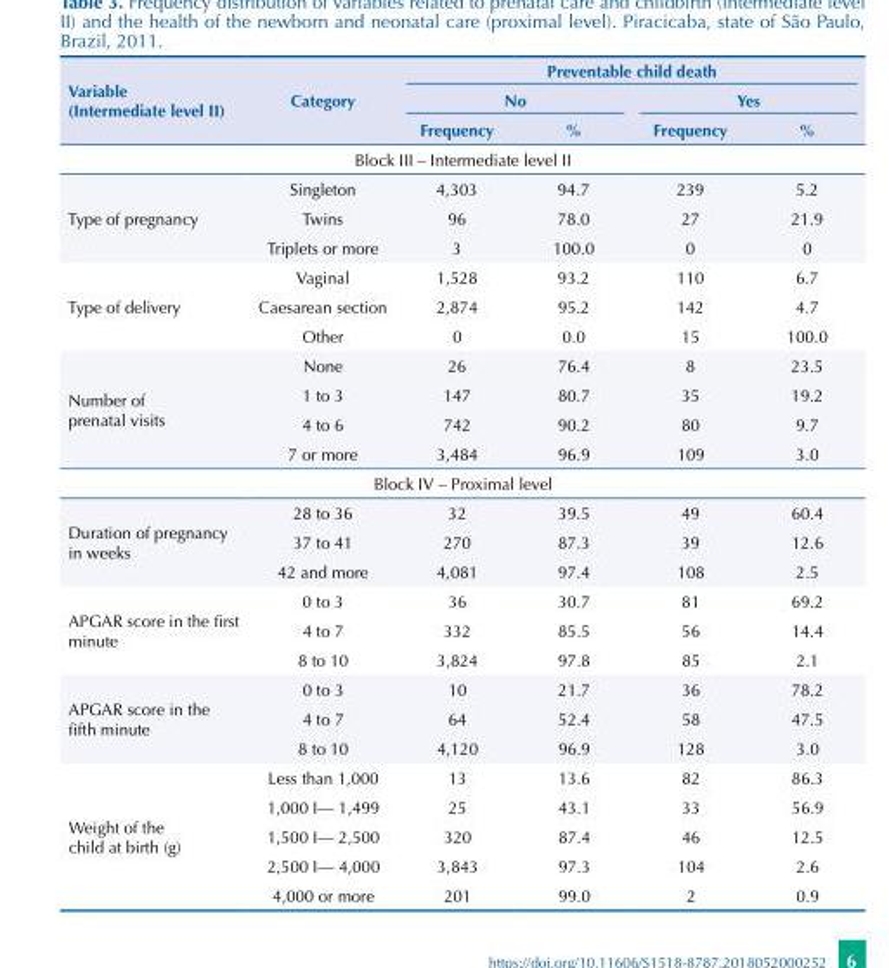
<table><thead><tr><td rowspan="3">Variable (Intermediate level II)</td><td rowspan="3">Category</td><td colspan="4">Preventable child death</td></tr><tr><td colspan="2">No</td><td colspan="2">Yes</td></tr><tr><td>Frequency</td><td>%</td><td>Frequency</td><td>%</td></tr></thead><tbody><tr><td colspan="6">Block III – Intermediate level II</td></tr><tr><td rowspan="3">Type of pregnancy</td><td>Singleton</td><td>4,303</td><td>94.7</td><td>239</td><td>5.2</td></tr><tr><td>Twins</td><td>96</td><td>78.0</td><td>27</td><td>21.9</td></tr><tr><td>Triplets or more</td><td>3</td><td>100.0</td><td>0</td><td>0</td></tr><tr><td rowspan="3">Type of delivery</td><td>Vaginal</td><td>1,528</td><td>93.2</td><td>110</td><td>6.7</td></tr><tr><td>Caesarean section</td><td>2,874</td><td>95.2</td><td>142</td><td>4.7</td></tr><tr><td>Other</td><td>0</td><td>0.0</td><td>15</td><td>100.0</td></tr><tr><td rowspan="4">Number of prenatal visits</td><td>None</td><td>26</td><td>76.4</td><td>8</td><td>23.5</td></tr><tr><td>1 to 3</td><td>147</td><td>80.7</td><td>35</td><td>19.2</td></tr><tr><td>4 to 6</td><td>742</td><td>90.2</td><td>80</td><td>9.7</td></tr><tr><td>7 or more</td><td>3,484</td><td>96.9</td><td>109</td><td>3.0</td></tr><tr><td colspan="6">Block IV – Proximal level</td></tr><tr><td rowspan="3">Duration of pregnancy in weeks</td><td>28 to 36</td><td>32</td><td>39.5</td><td>49</td><td>60.4</td></tr><tr><td>37 to 41</td><td>270</td><td>87.3</td><td>39</td><td>12.6</td></tr><tr><td>42 and more</td><td>4,081</td><td>97.4</td><td>108</td><td>2.5</td></tr><tr><td rowspan="3">APGAR score in the first minute</td><td>0 to 3</td><td>36</td><td>30.7</td><td>81</td><td>69.2</td></tr><tr><td>4 to 7</td><td>332</td><td>85.5</td><td>56</td><td>14.4</td></tr><tr><td>8 to 10</td><td>3,824</td><td>97.8</td><td>85</td><td>2.1</td></tr><tr><td rowspan="3">APGAR score in the fifth minute</td><td>0 to 3</td><td>10</td><td>21.7</td><td>36</td><td>78.2</td></tr><tr><td>4 to 7</td><td>64</td><td>52.4</td><td>58</td><td>47.5</td></tr><tr><td>8 to 10</td><td>4,120</td><td>96.9</td><td>128</td><td>3.0</td></tr><tr><td rowspan="5">Weight of the child at birth (g)</td><td>Less than 1,000</td><td>13</td><td>13.6</td><td>82</td><td>86.3</td></tr><tr><td>1,000 I— 1,499</td><td>25</td><td>43.1</td><td>33</td><td>56.9</td></tr><tr><td>1,500 I— 2,500</td><td>320</td><td>87.4</td><td>46</td><td>12.5</td></tr><tr><td>2,500 I— 4,000</td><td>3,843</td><td>97.3</td><td>104</td><td>2.6</td></tr><tr><td>4,000 or more</td><td>201</td><td>99.0</td><td>2</td><td>0.9</td></tr></tbody></table>